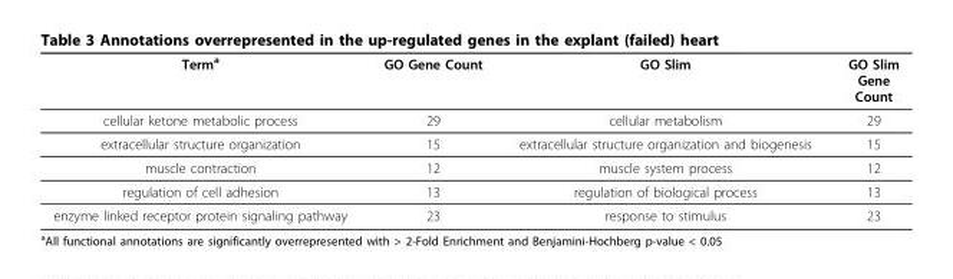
<table><thead><tr><td>Term<sup>a</sup></td><td>GO Gene Count</td><td>GO Slim</td><td>GO Slim Gene Count</td></tr></thead><tbody><tr><td>cellular ketone metabolic process</td><td>29</td><td>cellular metabolism</td><td>29</td></tr><tr><td>extracellular structure organization</td><td>15</td><td>extracellular structure organization and biogenesis</td><td>15</td></tr><tr><td>muscle contraction</td><td>12</td><td>muscle system process</td><td>12</td></tr><tr><td>regulation of cell adhesion</td><td>13</td><td>regulation of biological process</td><td>13</td></tr><tr><td>enzyme linked receptor protein signaling pathway</td><td>23</td><td>response to stimulus</td><td>23</td></tr></tbody></table>